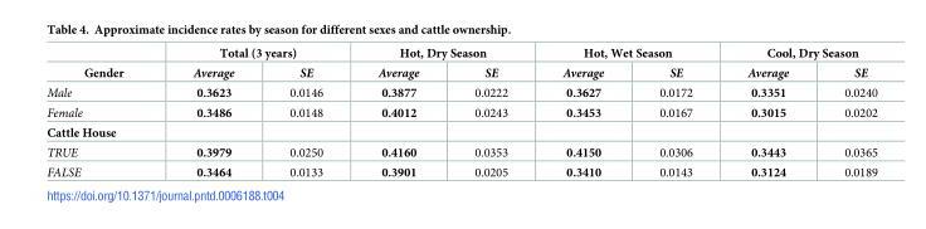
<table><thead><tr><td rowspan="2">Gender</td><td colspan="2">Total (3 years)</td><td colspan="2">Hot, Dry Season</td><td colspan="2">Hot, Wet Season</td><td colspan="2">Cool, Dry Season</td></tr><tr><td>Average</td><td>SE</td><td>Average</td><td>SE</td><td>Average</td><td>SE</td><td>Average</td><td>SE</td></tr></thead><tbody><tr><td>Male</td><td>0.3623</td><td>0.0146</td><td>0.3877</td><td>0.0222</td><td>0.3627</td><td>0.0172</td><td>0.3351</td><td>0.0240</td></tr><tr><td>Female</td><td>0.3486</td><td>0.0148</td><td>0.4012</td><td>0.0243</td><td>0.3453</td><td>0.0167</td><td>0.3015</td><td>0.0202</td></tr><tr><td colspan="9">Cattle House</td></tr><tr><td>TRUE</td><td>0.3979</td><td>0.0250</td><td>0.4160</td><td>0.0353</td><td>0.4150</td><td>0.0306</td><td>0.3443</td><td>0.0365</td></tr><tr><td>FALSE</td><td>0.3464</td><td>0.0133</td><td>0.3901</td><td>0.0205</td><td>0.3410</td><td>0.0143</td><td>0.3124</td><td>0.0189</td></tr></tbody></table>